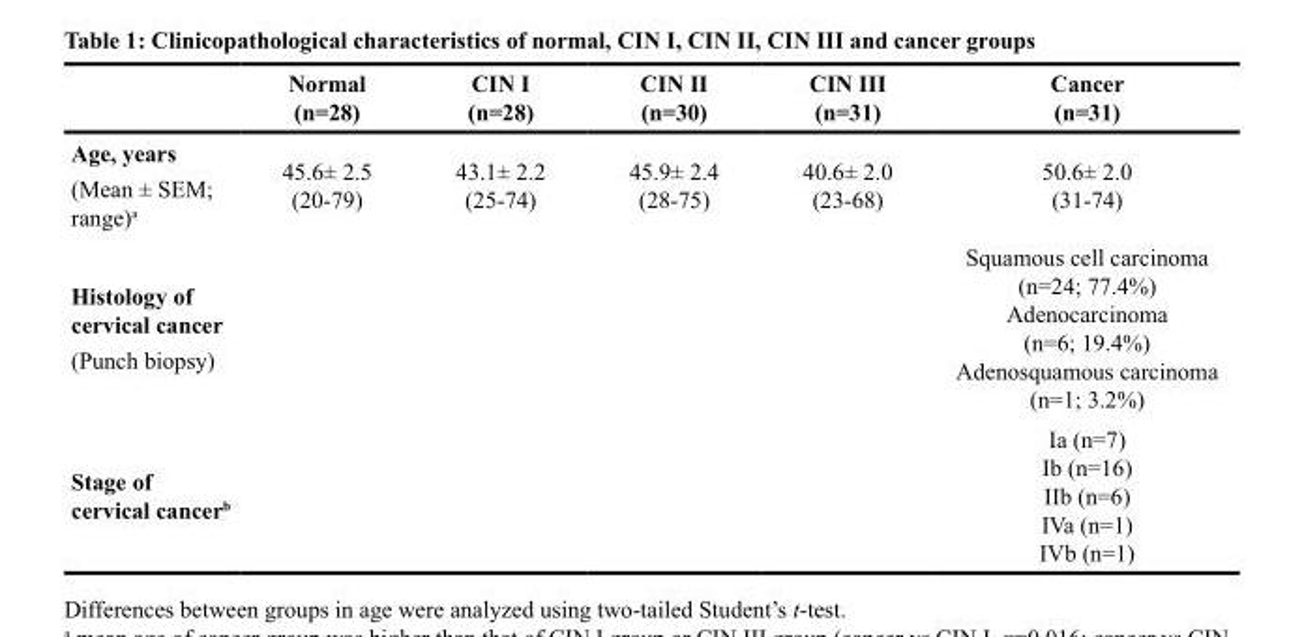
<table><thead><tr><td></td><td>Normal (n=28)</td><td>CIN I (n=28)</td><td>CIN II (n=30)</td><td>CIN III (n=31)</td><td>Cancer (n=31)</td></tr></thead><tbody><tr><td>Age, years (Mean ± SEM; range)<sup>a</sup></td><td>45.6± 2.5 (20-79)</td><td>43.1± 2.2 (25-74)</td><td>45.9± 2.4 (28-75)</td><td>40.6± 2.0 (23-68)</td><td>50.6± 2.0 (31-74)</td></tr><tr><td>Histology of cervical cancer (Punch biopsy)</td><td></td><td></td><td></td><td></td><td>Squamous cell carcinoma (n=24; 77.4%) Adenocarcinoma (n=6; 19.4%) Adenosquamous carcinoma (n=1; 3.2%)</td></tr><tr><td>Stage of cervical cancer<sup>b</sup></td><td></td><td></td><td></td><td></td><td>Ia (n=7) Ib (n=16) IIb (n=6) IVa (n=1) IVb (n=1)</td></tr></tbody></table>